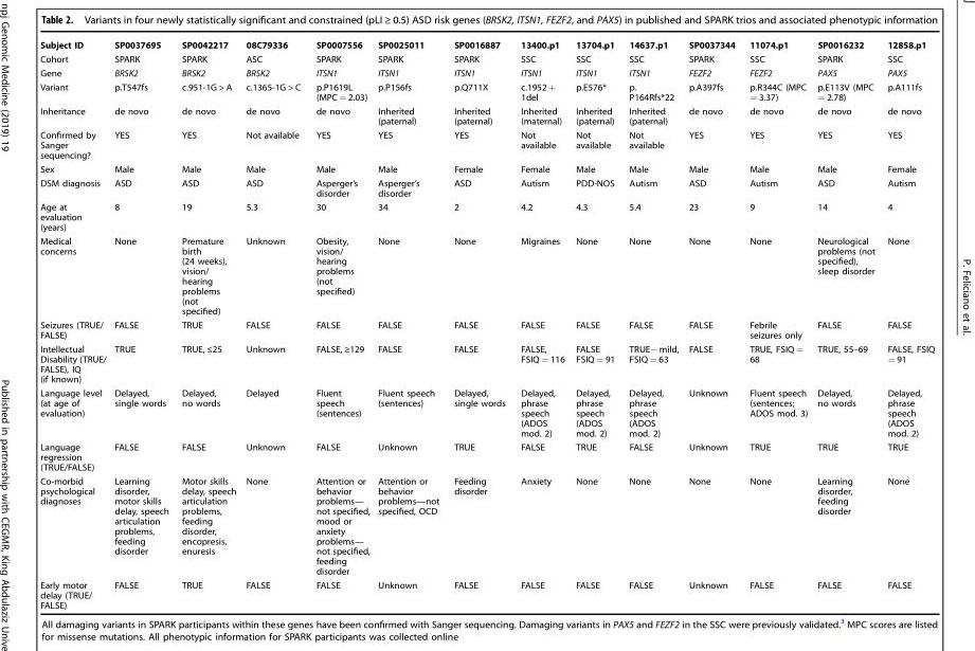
<table><tbody><tr><td>Subject ID</td><td>SP0037695</td><td>SP0042217</td><td>08C79336</td><td>SP0007556</td><td>SP0025011</td><td>SP0016887</td><td>13400.p1</td><td>13704.p1</td><td>14637.p1</td><td>SP0037344</td><td>11074.p1</td><td>SP0016232</td><td>12858.p1</td></tr><tr><td>Cohort</td><td>SPARK</td><td>SPARK</td><td>ASC</td><td>SPARK</td><td>SPARK</td><td>SPARK</td><td>SSC</td><td>SSC</td><td>SSC</td><td>SPARK</td><td>SSC</td><td>SPARK</td><td>SSC</td></tr><tr><td>Gene</td><td>BRSK2</td><td>BRSK2</td><td>BRSK2</td><td>ITSN1</td><td>ITSN1</td><td>ITSN1</td><td>ITSN1</td><td>ITSN1</td><td>ITSN1</td><td>FEZF2</td><td>FEZF2</td><td>PAX5</td><td>PAX5</td></tr><tr><td>Variant</td><td>p.T547fs</td><td>c.951-1G &gt; A</td><td>c.1365-1G &gt; C</td><td>p.P1619L (MPC = 2.03)</td><td>p.P156fs</td><td>p.Q711X</td><td>c.1952 + 1del</td><td>p.E576*</td><td>p. P164Rfs*22</td><td>p.A397fs</td><td>p.R344C (MPC = 3.37)</td><td>p.E113V (MPC = 2.78)</td><td>p.A111fs</td></tr><tr><td>Inheritance</td><td>de novo</td><td>de novo</td><td>de novo</td><td>de novo</td><td>Inherited (paternal)</td><td>Inherited (paternal)</td><td>Inherited (maternal)</td><td>Inherited (paternal)</td><td>Inherited (paternal)</td><td>de novo</td><td>de novo</td><td>de novo</td><td>de novo</td></tr><tr><td>Confirmed by Sanger sequencing?</td><td>YES</td><td>YES</td><td>Not available</td><td>YES</td><td>YES</td><td>YES</td><td>Not available</td><td>Not available</td><td>Not available</td><td>YES</td><td>YES</td><td>YES</td><td>YES</td></tr><tr><td>Sex</td><td>Male</td><td>Male</td><td>Male</td><td>Male</td><td>Male</td><td>Female</td><td>Female</td><td>Male</td><td>Male</td><td>Male</td><td>Male</td><td>Male</td><td>Female</td></tr><tr><td>DSM diagnosis</td><td>ASD</td><td>ASD</td><td>ASD</td><td>Asperger’s disorder</td><td>Asperger’s disorder</td><td>ASD</td><td>Autism</td><td>PDD-NOS</td><td>Autism</td><td>ASD</td><td>Autism</td><td>ASD</td><td>Autism</td></tr><tr><td>Age at evaluation (years)</td><td>8</td><td>19</td><td>5.3</td><td>30</td><td>34</td><td>2</td><td>4.2</td><td>4.3</td><td>5.4</td><td>23</td><td>9</td><td>14</td><td>4</td></tr><tr><td>Medical concerns</td><td>None</td><td>Premature birth (24 weeks), vision/ hearing problems (not specified)</td><td>Unknown</td><td>Obesity, vision/ hearing problems (not specified)</td><td>None</td><td>None</td><td>Migraines</td><td>None</td><td>None</td><td>None</td><td>None</td><td>Neurological problems (not specified), sleep disorder</td><td>None</td></tr><tr><td>Seizures (TRUE/ FALSE)</td><td>FALSE</td><td>TRUE</td><td>FALSE</td><td>FALSE</td><td>FALSE</td><td>FALSE</td><td>FALSE</td><td>FALSE</td><td>FALSE</td><td>FALSE</td><td>Febrile seizures only</td><td>FALSE</td><td>FALSE</td></tr><tr><td>Intellectual Disability (TRUE/ FALSE), IQ (if known)</td><td>TRUE</td><td>TRUE, ≤25</td><td>Unknown</td><td>FALSE, ≥129</td><td>FALSE</td><td>FALSE</td><td>FALSE, FSIQ = 116</td><td>FALSE FSIQ = 91</td><td>TRUE− mild, FSIQ = 63</td><td>FALSE</td><td>TRUE, FSIQ = 68</td><td>TRUE, 55–69</td><td>FALSE, FSIQ = 91</td></tr><tr><td>Language level (at age of evaluation)</td><td>Delayed, single words</td><td>Delayed, no words</td><td>Delayed</td><td>Fluent speech (sentences)</td><td>Fluent speech (sentences)</td><td>Delayed, single words</td><td>Delayed, phrase speech (ADOS mod. 2)</td><td>Delayed, phrase speech (ADOS mod. 2)</td><td>Delayed, phrase speech (ADOS mod. 2)</td><td>Unknown</td><td>Fluent speech (sentences; ADOS mod. 3)</td><td>Delayed, no words</td><td>Delayed, phrase speech (ADOS mod. 2)</td></tr><tr><td>Language regression (TRUE/FALSE)</td><td>FALSE</td><td>FALSE</td><td>Unknown</td><td>FALSE</td><td>Unknown</td><td>TRUE</td><td>FALSE</td><td>TRUE</td><td>FALSE</td><td>Unknown</td><td>TRUE</td><td>TRUE</td><td>TRUE</td></tr><tr><td>Co-morbid psychological diagnoses</td><td>Learning disorder, motor skills delay, speech articulation problems, feeding disorder</td><td>Motor skills delay, speech articulation problems, feeding disorder, encopresis, enuresis</td><td>None</td><td>Attention or behavior problems— not specified, mood or anxiety problems— not specified, feeding disorder</td><td>Attention or behavior problems—not specified, OCD</td><td>Feeding disorder</td><td>Anxiety</td><td>None</td><td>None</td><td>None</td><td>None</td><td>Learning disorder, feeding disorder</td><td>None</td></tr><tr><td>Early motor delay (TRUE/ FALSE)</td><td>FALSE</td><td>TRUE</td><td>FALSE</td><td>FALSE</td><td>Unknown</td><td>FALSE</td><td>FALSE</td><td>FALSE</td><td>FALSE</td><td>Unknown</td><td>FALSE</td><td>FALSE</td><td>FALSE</td></tr></tbody></table>